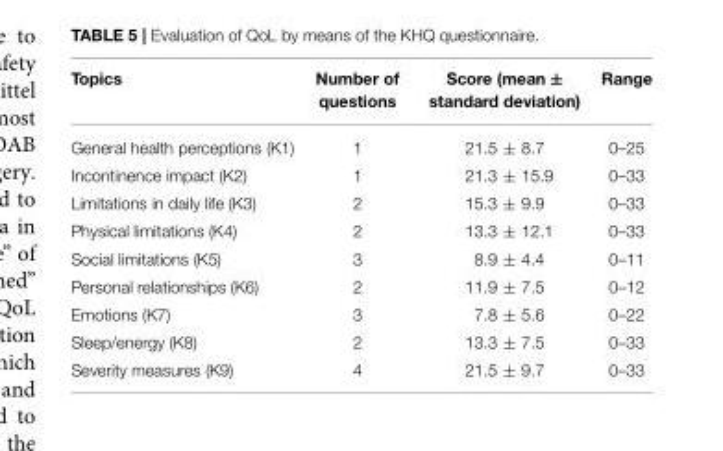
<table><thead><tr><td>Topics</td><td>Number of questions</td><td>Score (mean ± standard deviation)</td><td>Range</td></tr></thead><tbody><tr><td>General health perceptions (K1)</td><td>1</td><td>21.5 ± 8.7</td><td>0–25</td></tr><tr><td>Incontinence impact (K2)</td><td>1</td><td>21.3 ± 15.9</td><td>0–33</td></tr><tr><td>Limitations in daily life (K3)</td><td>2</td><td>15.3 ± 9.9</td><td>0–33</td></tr><tr><td>Physical limitations (K4)</td><td>2</td><td>13.3 ± 12.1</td><td>0–33</td></tr><tr><td>Social limitations (K5)</td><td>3</td><td>8.9 ± 4.4</td><td>0–11</td></tr><tr><td>Personal relationships (K6)</td><td>2</td><td>11.9 ± 7.5</td><td>0–12</td></tr><tr><td>Emotions (K7)</td><td>3</td><td>7.8 ± 5.6</td><td>0–22</td></tr><tr><td>Sleep/energy (K8)</td><td>2</td><td>13.3 ± 7.5</td><td>0–33</td></tr><tr><td>Severity measures (K9)</td><td>4</td><td>21.5 ± 9.7</td><td>0–33</td></tr></tbody></table>